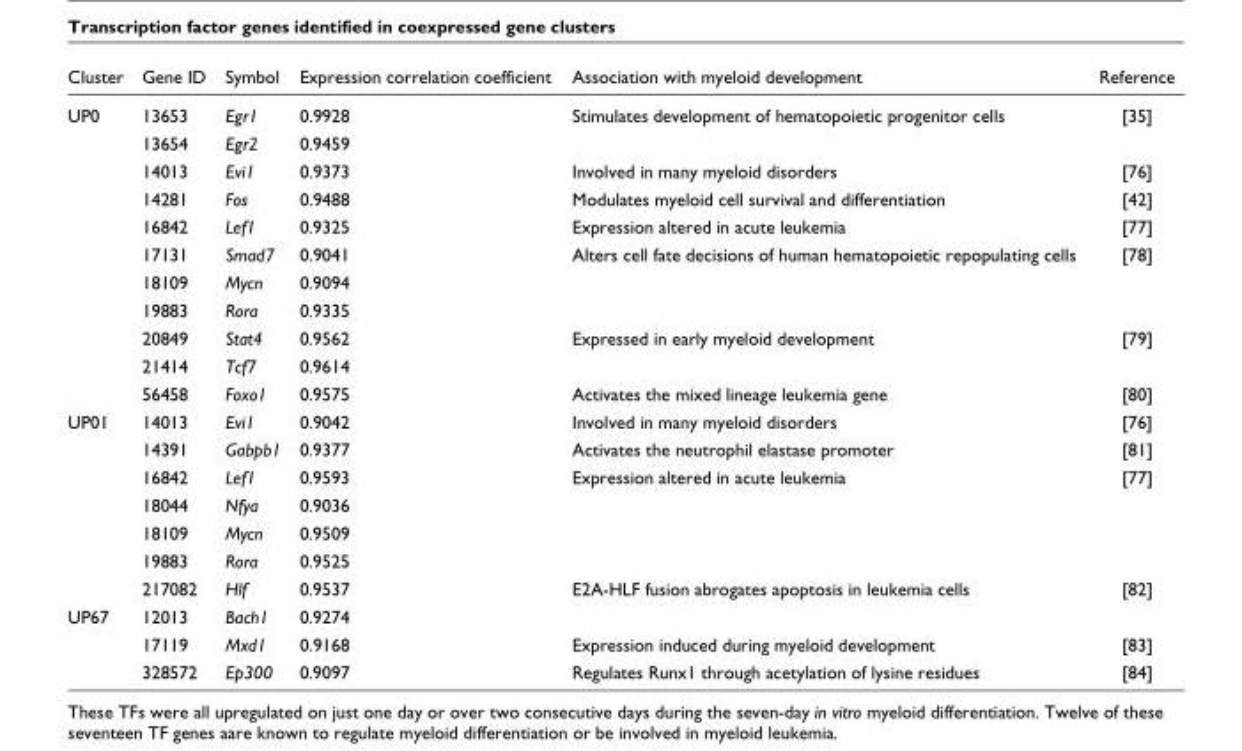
<table><thead><tr><td>Cluster</td><td>Gene ID</td><td>Symbol</td><td>Expression correlation coefficient</td><td>Association with myeloid development</td><td>Reference</td></tr></thead><tbody><tr><td rowspan="11">UP0</td><td>13653</td><td>Egr1</td><td>0.9928</td><td>Stimulates development of hematopoietic progenitor cells</td><td>[35]</td></tr><tr><td>13654</td><td>Egr2</td><td>0.9459</td><td></td><td></td></tr><tr><td>14013</td><td>Evi1</td><td>0.9373</td><td>Involved in many myeloid disorders</td><td>[76]</td></tr><tr><td>14281</td><td>Fos</td><td>0.9488</td><td>Modulates myeloid cell survival and differentiation</td><td>[42]</td></tr><tr><td>16842</td><td>Lef1</td><td>0.9325</td><td>Expression altered in acute leukemia</td><td>[77]</td></tr><tr><td>17131</td><td>Smad7</td><td>0.9041</td><td>Alters cell fate decisions of human hematopoietic repopulating cells</td><td>[78]</td></tr><tr><td>18109</td><td>Mycn</td><td>0.9094</td><td></td><td></td></tr><tr><td>19883</td><td>Rora</td><td>0.9335</td><td></td><td></td></tr><tr><td>20849</td><td>Stat4</td><td>0.9562</td><td>Expressed in early myeloid development</td><td>[79]</td></tr><tr><td>21414</td><td>Tcf7</td><td>0.9614</td><td></td><td></td></tr><tr><td>56458</td><td>Foxo1</td><td>0.9575</td><td>Activates the mixed lineage leukemia gene</td><td>[80]</td></tr><tr><td rowspan="7">UP01</td><td>14013</td><td>Evi1</td><td>0.9042</td><td>Involved in many myeloid disorders</td><td>[76]</td></tr><tr><td>14391</td><td>Gabpb1</td><td>0.9377</td><td>Activates the neutrophil elastase promoter</td><td>[81]</td></tr><tr><td>16842</td><td>Lef1</td><td>0.9593</td><td>Expression altered in acute leukemia</td><td>[77]</td></tr><tr><td>18044</td><td>Nfya</td><td>0.9036</td><td></td><td></td></tr><tr><td>18109</td><td>Mycn</td><td>0.9509</td><td></td><td></td></tr><tr><td>19883</td><td>Rora</td><td>0.9525</td><td></td><td></td></tr><tr><td>217082</td><td>Hlf</td><td>0.9537</td><td>E2A-HLF fusion abrogates apoptosis in leukemia cells</td><td>[82]</td></tr><tr><td rowspan="3">UP67</td><td>12013</td><td>Bach1</td><td>0.9274</td><td></td><td></td></tr><tr><td>17119</td><td>Mxd1</td><td>0.9168</td><td>Expression induced during myeloid development</td><td>[83]</td></tr><tr><td>328572</td><td>Ep300</td><td>0.9097</td><td>Regulates Runx1 through acetylation of lysine residues</td><td>[84]</td></tr></tbody></table>